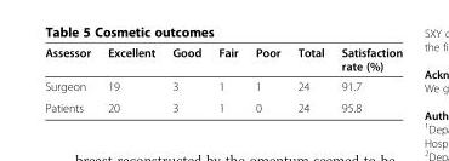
<table><thead><tr><td>Assessor</td><td>Excellent</td><td>Good</td><td>Fair</td><td>Poor</td><td>Total</td><td>Satisfaction rate (%)</td></tr></thead><tbody><tr><td>Surgeon</td><td>19</td><td>3</td><td>1</td><td>1</td><td>24</td><td>91.7</td></tr><tr><td>Patients</td><td>20</td><td>3</td><td>1</td><td>0</td><td>24</td><td>95.8</td></tr></tbody></table>